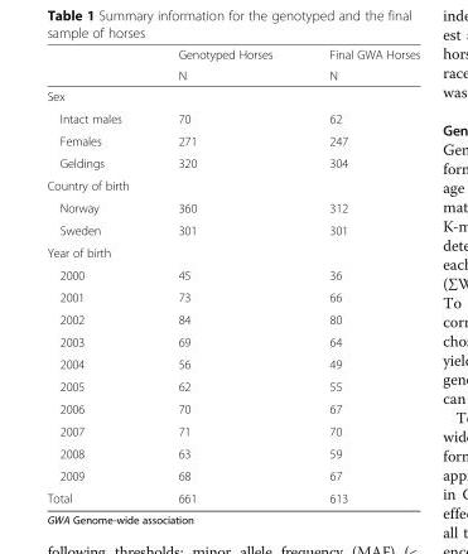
<table><thead><tr><td rowspan="2"></td><td rowspan="2">Genotyped Horses N</td><td rowspan="2">Final GWA Horses N</td></tr><tr></tr></thead><tbody><tr><td colspan="3">Sex</td></tr><tr><td>Intact males</td><td>70</td><td>62</td></tr><tr><td>Females</td><td>271</td><td>247</td></tr><tr><td>Geldings</td><td>320</td><td>304</td></tr><tr><td colspan="3">Country of birth</td></tr><tr><td>Norway</td><td>360</td><td>312</td></tr><tr><td>Sweden</td><td>301</td><td>301</td></tr><tr><td colspan="3">Year of birth</td></tr><tr><td>2000</td><td>45</td><td>36</td></tr><tr><td>2001</td><td>73</td><td>66</td></tr><tr><td>2002</td><td>84</td><td>80</td></tr><tr><td>2003</td><td>69</td><td>64</td></tr><tr><td>2004</td><td>56</td><td>49</td></tr><tr><td>2005</td><td>62</td><td>55</td></tr><tr><td>2006</td><td>70</td><td>67</td></tr><tr><td>2007</td><td>71</td><td>70</td></tr><tr><td>2008</td><td>63</td><td>59</td></tr><tr><td>2009</td><td>68</td><td>67</td></tr><tr><td>Total</td><td>661</td><td>613</td></tr></tbody></table>